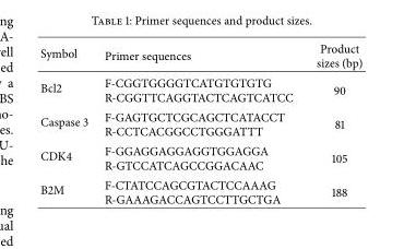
<table><thead><tr><td>Symbol</td><td>Primer sequences</td><td>Product sizes (bp)</td></tr></thead><tbody><tr><td>Bcl2</td><td>F-CGGTGGGGTCATGTGTGTG R-CGGTTCAGGTACTCAGTCATCC</td><td>90</td></tr><tr><td>Caspase 3</td><td>F-GAGTGCTCGCAGCTCATACCT R-CCTCACGGCCTGGGATTT</td><td>81</td></tr><tr><td>CDK4</td><td>F-GGAGGAGGAGGTGGAGGA R-GTCCATCAGCCGGACAAC</td><td>105</td></tr><tr><td>B2M</td><td>F-CTATCCAGCGTACTCCAAAG R-GAAAGACCAGTCCTTGCTGA</td><td>188</td></tr></tbody></table>